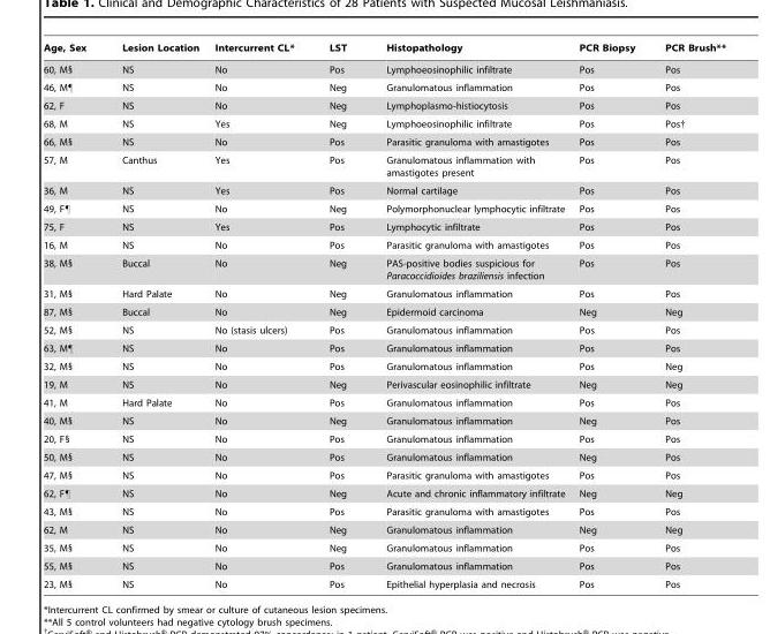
<table><thead><tr><td>Age, Sex</td><td>Lesion Location</td><td>Intercurrent CL*</td><td>LST</td><td>Histopathology</td><td>PCR Biopsy</td><td>PCR Brush**</td></tr></thead><tbody><tr><td>60, M§</td><td>NS</td><td>No</td><td>Pos</td><td>Lymphoeosinophilic infiltrate</td><td>Pos</td><td>Pos</td></tr><tr><td>46, M¶</td><td>NS</td><td>No</td><td>Neg</td><td>Granulomatous inflammation</td><td>Pos</td><td>Pos</td></tr><tr><td>62, F</td><td>NS</td><td>No</td><td>Neg</td><td>Lymphoplasmo-histiocytosis</td><td>Pos</td><td>Pos</td></tr><tr><td>68, M</td><td>NS</td><td>Yes</td><td>Neg</td><td>Lymphoeosinophilic infiltrate</td><td>Pos</td><td>Pos†</td></tr><tr><td>66, M§</td><td>NS</td><td>No</td><td>Pos</td><td>Parasitic granuloma with amastigotes</td><td>Pos</td><td>Pos</td></tr><tr><td>57, M</td><td>Canthus</td><td>Yes</td><td>Pos</td><td>Granulomatous inflammation with amastigotes present</td><td>Pos</td><td>Pos</td></tr><tr><td>36, M</td><td>NS</td><td>Yes</td><td>Pos</td><td>Normal cartilage</td><td>Pos</td><td>Pos</td></tr><tr><td>49, F¶</td><td>NS</td><td>No</td><td>Neg</td><td>Polymorphonuclear lymphocytic infiltrate</td><td>Pos</td><td>Pos</td></tr><tr><td>75, F</td><td>NS</td><td>Yes</td><td>Pos</td><td>Lymphocytic infiltrate</td><td>Pos</td><td>Pos</td></tr><tr><td>16, M</td><td>NS</td><td>No</td><td>Pos</td><td>Parasitic granuloma with amastigotes</td><td>Pos</td><td>Pos</td></tr><tr><td>38, M§</td><td>Buccal</td><td>No</td><td>Neg</td><td>PAS-positive bodies suspicious for Paracoccidioides braziliensis infection</td><td>Pos</td><td>Pos</td></tr><tr><td>31, M§</td><td>Hard Palate</td><td>No</td><td>Neg</td><td>Granulomatous inflammation</td><td>Pos</td><td>Pos</td></tr><tr><td>87, M§</td><td>Buccal</td><td>No</td><td>Neg</td><td>Epidermoid carcinoma</td><td>Neg</td><td>Neg</td></tr><tr><td>52, M§</td><td>NS</td><td>No (stasis ulcers)</td><td>Pos</td><td>Granulomatous inflammation</td><td>Pos</td><td>Pos</td></tr><tr><td>63, M¶</td><td>NS</td><td>No</td><td>Pos</td><td>Granulomatous inflammation</td><td>Pos</td><td>Pos</td></tr><tr><td>32, M§</td><td>NS</td><td>No</td><td>Pos</td><td>Granulomatous inflammation</td><td>Pos</td><td>Neg</td></tr><tr><td>19, M</td><td>NS</td><td>No</td><td>Neg</td><td>Perivascular eosinophilic infiltrate</td><td>Neg</td><td>Neg</td></tr><tr><td>41, M</td><td>Hard Palate</td><td>No</td><td>Pos</td><td>Granulomatous inflammation</td><td>Pos</td><td>Pos</td></tr><tr><td>40, M§</td><td>NS</td><td>No</td><td>Neg</td><td>Granulomatous inflammation</td><td>Neg</td><td>Pos</td></tr><tr><td>20, F§</td><td>NS</td><td>No</td><td>Pos</td><td>Granulomatous inflammation</td><td>Pos</td><td>Pos</td></tr><tr><td>50, M§</td><td>NS</td><td>No</td><td>Pos</td><td>Granulomatous inflammation</td><td>Neg</td><td>Pos</td></tr><tr><td>47, M§</td><td>NS</td><td>No</td><td>Pos</td><td>Parasitic granuloma with amastigotes</td><td>Pos</td><td>Pos</td></tr><tr><td>62, F¶</td><td>NS</td><td>No</td><td>Neg</td><td>Acute and chronic inflammatory infiltrate</td><td>Neg</td><td>Neg</td></tr><tr><td>43, M§</td><td>NS</td><td>No</td><td>Pos</td><td>Parasitic granuloma with amastigotes</td><td>Pos</td><td>Pos</td></tr><tr><td>62, M</td><td>NS</td><td>No</td><td>Neg</td><td>Granulomatous inflammation</td><td>Neg</td><td>Neg</td></tr><tr><td>35, M§</td><td>NS</td><td>No</td><td>Neg</td><td>Granulomatous inflammation</td><td>Pos</td><td>Pos</td></tr><tr><td>55, M§</td><td>NS</td><td>No</td><td>Pos</td><td>Granulomatous inflammation</td><td>Pos</td><td>Pos</td></tr><tr><td>23, M§</td><td>NS</td><td>No</td><td>Pos</td><td>Epithelial hyperplasia and necrosis</td><td>Pos</td><td>Pos</td></tr></tbody></table>